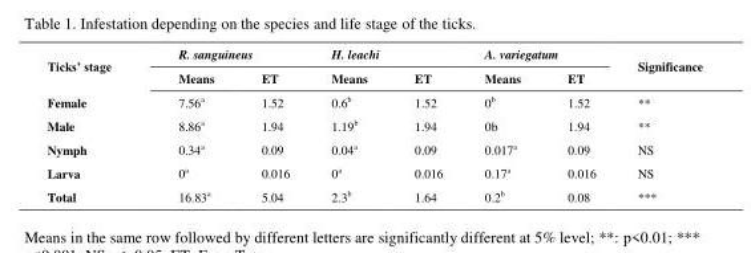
<table><thead><tr><td rowspan="2">Ticks’ stage</td><td colspan="2">R. sanguineus</td><td colspan="2">H. leachi</td><td colspan="2">A. variegatum</td><td rowspan="2">Significance</td></tr><tr><td>Means</td><td>ET</td><td>Means</td><td>ET</td><td>Means</td><td>ET</td></tr></thead><tbody><tr><td>Female</td><td>7.56<sup>a</sup></td><td>1.52</td><td>0.6<sup>b</sup></td><td>1.52</td><td>0<sup>b</sup></td><td>1.52</td><td>**</td></tr><tr><td>Male</td><td>8.86<sup>a</sup></td><td>1.94</td><td>1.19<sup>b</sup></td><td>1.94</td><td>0b</td><td>1.94</td><td>**</td></tr><tr><td>Nymph</td><td>0.34<sup>a</sup></td><td>0.09</td><td>0.04<sup>a</sup></td><td>0.09</td><td>0.017<sup>a</sup></td><td>0.09</td><td>NS</td></tr><tr><td>Larva</td><td>0<sup>a</sup></td><td>0.016</td><td>0<sup>a</sup></td><td>0.016</td><td>0.17<sup>a</sup></td><td>0.016</td><td>NS</td></tr><tr><td>Total</td><td>16.83<sup>a</sup></td><td>5.04</td><td>2.3<sup>b</sup></td><td>1.64</td><td>0.2<sup>b</sup></td><td>0.08</td><td>***</td></tr></tbody></table>